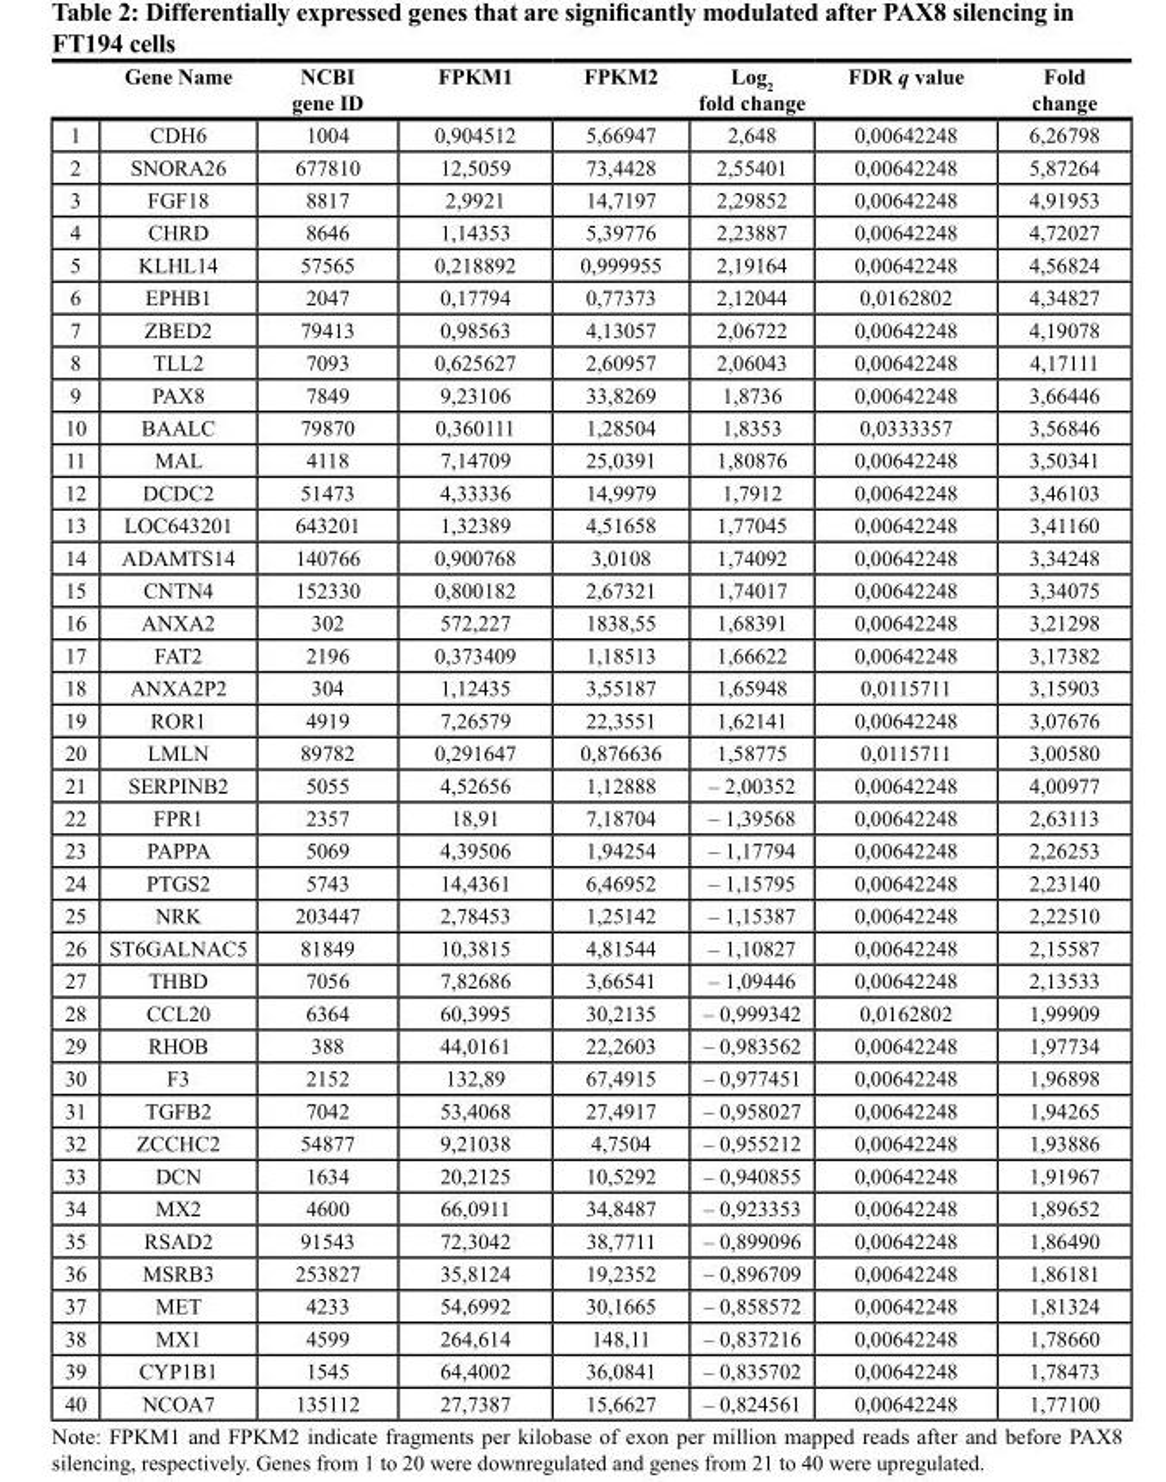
<table><thead><tr><td></td><td>Gene Name</td><td>NCBI gene ID</td><td>FPKM1</td><td>FPKM2</td><td>Log<sub>2</sub> fold change</td><td>FDR q value</td><td>Fold change</td></tr></thead><tbody><tr><td>1</td><td>CDH6</td><td>1004</td><td>0,904512</td><td>5,66947</td><td>2,648</td><td>0,00642248</td><td>6,26798</td></tr><tr><td>2</td><td>SNORA26</td><td>677810</td><td>12,5059</td><td>73,4428</td><td>2,55401</td><td>0,00642248</td><td>5,87264</td></tr><tr><td>3</td><td>FGF18</td><td>8817</td><td>2,9921</td><td>14,7197</td><td>2,29852</td><td>0,00642248</td><td>4,91953</td></tr><tr><td>4</td><td>CHRD</td><td>8646</td><td>1,14353</td><td>5,39776</td><td>2,23887</td><td>0,00642248</td><td>4,72027</td></tr><tr><td>5</td><td>KLHL14</td><td>57565</td><td>0,218892</td><td>0,999955</td><td>2,19164</td><td>0,00642248</td><td>4,56824</td></tr><tr><td>6</td><td>EPHB1</td><td>2047</td><td>0,17794</td><td>0,77373</td><td>2,12044</td><td>0,0162802</td><td>4,34827</td></tr><tr><td>7</td><td>ZBED2</td><td>79413</td><td>0,98563</td><td>4,13057</td><td>2,06722</td><td>0,00642248</td><td>4,19078</td></tr><tr><td>8</td><td>TLL2</td><td>7093</td><td>0,625627</td><td>2,60957</td><td>2,06043</td><td>0,00642248</td><td>4,17111</td></tr><tr><td>9</td><td>PAX8</td><td>7849</td><td>9,23106</td><td>33,8269</td><td>1,8736</td><td>0,00642248</td><td>3,66446</td></tr><tr><td>10</td><td>BAALC</td><td>79870</td><td>0,360111</td><td>1,28504</td><td>1,8353</td><td>0,0333357</td><td>3,56846</td></tr><tr><td>11</td><td>MAL</td><td>4118</td><td>7,14709</td><td>25,0391</td><td>1,80876</td><td>0,00642248</td><td>3,50341</td></tr><tr><td>12</td><td>DCDC2</td><td>51473</td><td>4,33336</td><td>14,9979</td><td>1,7912</td><td>0,00642248</td><td>3,46103</td></tr><tr><td>13</td><td>LOC643201</td><td>643201</td><td>1,32389</td><td>4,51658</td><td>1,77045</td><td>0,00642248</td><td>3,41160</td></tr><tr><td>14</td><td>ADAMTS14</td><td>140766</td><td>0,900768</td><td>3,0108</td><td>1,74092</td><td>0,00642248</td><td>3,34248</td></tr><tr><td>15</td><td>CNTN4</td><td>152330</td><td>0,800182</td><td>2,67321</td><td>1,74017</td><td>0,00642248</td><td>3,34075</td></tr><tr><td>16</td><td>ANXA2</td><td>302</td><td>572,227</td><td>1838,55</td><td>1,68391</td><td>0,00642248</td><td>3,21298</td></tr><tr><td>17</td><td>FAT2</td><td>2196</td><td>0,373409</td><td>1,18513</td><td>1,66622</td><td>0,00642248</td><td>3,17382</td></tr><tr><td>18</td><td>ANXA2P2</td><td>304</td><td>1,12435</td><td>3,55187</td><td>1,65948</td><td>0,0115711</td><td>3,15903</td></tr><tr><td>19</td><td>ROR1</td><td>4919</td><td>7,26579</td><td>22,3551</td><td>1,62141</td><td>0,00642248</td><td>3,07676</td></tr><tr><td>20</td><td>LMLN</td><td>89782</td><td>0,291647</td><td>0,876636</td><td>1,58775</td><td>0,0115711</td><td>3,00580</td></tr><tr><td>21</td><td>SERPINB2</td><td>5055</td><td>4,52656</td><td>1,12888</td><td>– 2,00352</td><td>0,00642248</td><td>4,00977</td></tr><tr><td>22</td><td>FPR1</td><td>2357</td><td>18,91</td><td>7,18704</td><td>– 1,39568</td><td>0,00642248</td><td>2,63113</td></tr><tr><td>23</td><td>PAPPA</td><td>5069</td><td>4,39506</td><td>1,94254</td><td>– 1,17794</td><td>0,00642248</td><td>2,26253</td></tr><tr><td>24</td><td>PTGS2</td><td>5743</td><td>14,4361</td><td>6,46952</td><td>– 1,15795</td><td>0,00642248</td><td>2,23140</td></tr><tr><td>25</td><td>NRK</td><td>203447</td><td>2,78453</td><td>1,25142</td><td>– 1,15387</td><td>0,00642248</td><td>2,22510</td></tr><tr><td>26</td><td>ST6GALNAC5</td><td>81849</td><td>10,3815</td><td>4,81544</td><td>– 1,10827</td><td>0,00642248</td><td>2,15587</td></tr><tr><td>27</td><td>THBD</td><td>7056</td><td>7,82686</td><td>3,66541</td><td>– 1,09446</td><td>0,00642248</td><td>2,13533</td></tr><tr><td>28</td><td>CCL20</td><td>6364</td><td>60,3995</td><td>30,2135</td><td>– 0,999342</td><td>0,0162802</td><td>1,99909</td></tr><tr><td>29</td><td>RHOB</td><td>388</td><td>44,0161</td><td>22,2603</td><td>– 0,983562</td><td>0,00642248</td><td>1,97734</td></tr><tr><td>30</td><td>F3</td><td>2152</td><td>132,89</td><td>67,4915</td><td>– 0,977451</td><td>0,00642248</td><td>1,96898</td></tr><tr><td>31</td><td>TGFB2</td><td>7042</td><td>53,4068</td><td>27,4917</td><td>– 0,958027</td><td>0,00642248</td><td>1,94265</td></tr><tr><td>32</td><td>ZCCHC2</td><td>54877</td><td>9,21038</td><td>4,7504</td><td>– 0,955212</td><td>0,00642248</td><td>1,93886</td></tr><tr><td>33</td><td>DCN</td><td>1634</td><td>20,2125</td><td>10,5292</td><td>– 0,940855</td><td>0,00642248</td><td>1,91967</td></tr><tr><td>34</td><td>MX2</td><td>4600</td><td>66,0911</td><td>34,8487</td><td>– 0,923353</td><td>0,00642248</td><td>1,89652</td></tr><tr><td>35</td><td>RSAD2</td><td>91543</td><td>72,3042</td><td>38,7711</td><td>– 0,899096</td><td>0,00642248</td><td>1,86490</td></tr><tr><td>36</td><td>MSRB3</td><td>253827</td><td>35,8124</td><td>19,2352</td><td>– 0,896709</td><td>0,00642248</td><td>1,86181</td></tr><tr><td>37</td><td>MET</td><td>4233</td><td>54,6992</td><td>30,1665</td><td>– 0,858572</td><td>0,00642248</td><td>1,81324</td></tr><tr><td>38</td><td>MX1</td><td>4599</td><td>264,614</td><td>148,11</td><td>– 0,837216</td><td>0,00642248</td><td>1,78660</td></tr><tr><td>39</td><td>CYP1B1</td><td>1545</td><td>64,4002</td><td>36,0841</td><td>– 0,835702</td><td>0,00642248</td><td>1,78473</td></tr><tr><td>40</td><td>NCOA7</td><td>135112</td><td>27,7387</td><td>15,6627</td><td>– 0,824561</td><td>0,00642248</td><td>1,77100</td></tr></tbody></table>